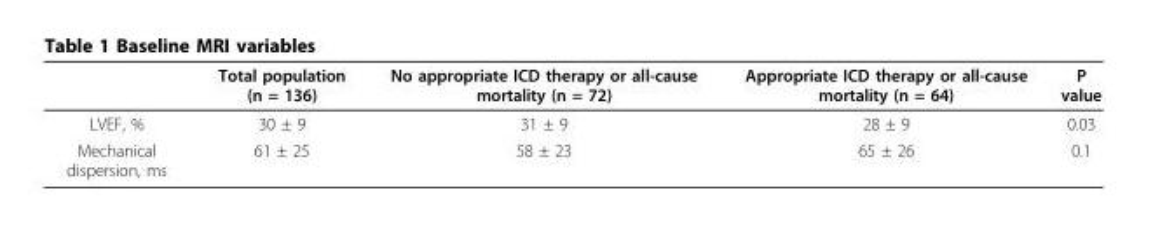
<table><thead><tr><td></td><td>Total population (n = 136)</td><td>No appropriate ICD therapy or all-cause mortality (n = 72)</td><td>Appropriate ICD therapy or all-cause mortality (n = 64)</td><td>P value</td></tr></thead><tbody><tr><td>LVEF, %</td><td>30 ± 9</td><td>31 ± 9</td><td>28 ± 9</td><td>0.03</td></tr><tr><td>Mechanical dispersion, ms</td><td>61 ± 25</td><td>58 ± 23</td><td>65 ± 26</td><td>0.1</td></tr></tbody></table>